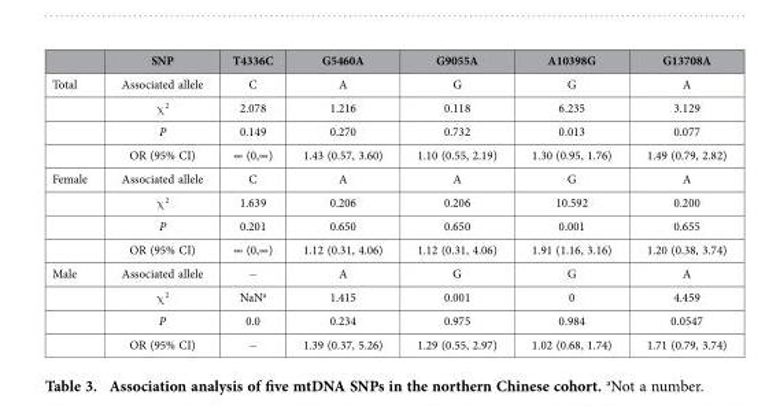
<table><thead><tr><td></td><td>SNP</td><td>T4336C</td><td>G5460A</td><td>G9055A</td><td>A10398G</td><td>G13708A</td></tr></thead><tbody><tr><td rowspan="4">Total</td><td>Associated allele</td><td>C</td><td>A</td><td>G</td><td>G</td><td>A</td></tr><tr><td>χ <sup>2</sup></td><td>2.078</td><td>1.216</td><td>0.118</td><td>6.235</td><td>3.129</td></tr><tr><td>P</td><td>0.149</td><td>0.270</td><td>0.732</td><td>0.013</td><td>0.077</td></tr><tr><td>OR (95% CI)</td><td>∞ (0,∞)</td><td>1.43 (0.57, 3.60)</td><td>1.10 (0.55, 2.19)</td><td>1.30 (0.95, 1.76)</td><td>1.49 (0.79, 2.82)</td></tr><tr><td rowspan="4">Female</td><td>Associated allele</td><td>C</td><td>A</td><td>A</td><td>G</td><td>A</td></tr><tr><td>χ <sup>2</sup></td><td>1.639</td><td>0.206</td><td>0.206</td><td>10.592</td><td>0.200</td></tr><tr><td>P</td><td>0.201</td><td>0.650</td><td>0.650</td><td>0.001</td><td>0.655</td></tr><tr><td>OR (95% CI)</td><td>∞ (0,∞)</td><td>1.12 (0.31, 4.06)</td><td>1.12 (0.31, 4.06)</td><td>1.91 (1.16, 3.16)</td><td>1.20 (0.38, 3.74)</td></tr><tr><td rowspan="4">Male</td><td>Associated allele</td><td>−</td><td>A</td><td>G</td><td>G</td><td>A</td></tr><tr><td>χ <sup>2</sup></td><td>NaN<sup>a</sup></td><td>1.415</td><td>0.001</td><td>0</td><td>4.459</td></tr><tr><td>P</td><td>0.0</td><td>0.234</td><td>0.975</td><td>0.984</td><td>0.0547</td></tr><tr><td>OR (95% CI)</td><td>−</td><td>1.39 (0.37, 5.26)</td><td>1.29 (0.55, 2.97)</td><td>1.02 (0.68, 1.74)</td><td>1.71 (0.79, 3.74)</td></tr></tbody></table>